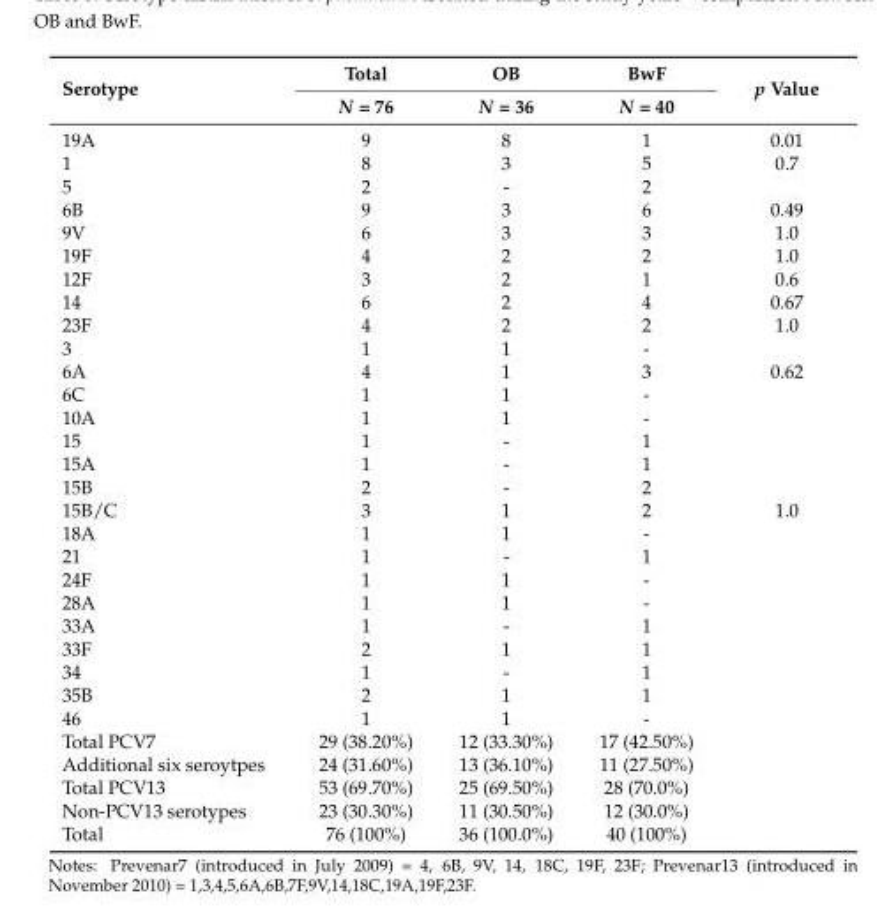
<table><thead><tr><td rowspan="2">Serotype</td><td rowspan="2">Total N = 76</td><td rowspan="2">OB N = 36</td><td rowspan="2">BwF N = 40</td><td rowspan="2">p Value</td></tr><tr></tr></thead><tbody><tr><td>19A</td><td>9</td><td>8</td><td>1</td><td>0.01</td></tr><tr><td>1</td><td>8</td><td>3</td><td>5</td><td>0.7</td></tr><tr><td>5</td><td>2</td><td>-</td><td>2</td><td></td></tr><tr><td>6B</td><td>9</td><td>3</td><td>6</td><td>0.49</td></tr><tr><td>9V</td><td>6</td><td>3</td><td>3</td><td>1.0</td></tr><tr><td>19F</td><td>4</td><td>2</td><td>2</td><td>1.0</td></tr><tr><td>12F</td><td>3</td><td>2</td><td>1</td><td>0.6</td></tr><tr><td>14</td><td>6</td><td>2</td><td>4</td><td>0.67</td></tr><tr><td>23F</td><td>4</td><td>2</td><td>2</td><td>1.0</td></tr><tr><td>3</td><td>1</td><td>1</td><td>-</td><td></td></tr><tr><td>6A</td><td>4</td><td>1</td><td>3</td><td>0.62</td></tr><tr><td>6C</td><td>1</td><td>1</td><td>-</td><td></td></tr><tr><td>10A</td><td>1</td><td>1</td><td>-</td><td></td></tr><tr><td>15</td><td>1</td><td>-</td><td>1</td><td></td></tr><tr><td>15A</td><td>1</td><td>-</td><td>1</td><td></td></tr><tr><td>15B</td><td>2</td><td>-</td><td>2</td><td></td></tr><tr><td>15B/C</td><td>3</td><td>1</td><td>2</td><td>1.0</td></tr><tr><td>18A</td><td>1</td><td>1</td><td>-</td><td></td></tr><tr><td>21</td><td>1</td><td>-</td><td>1</td><td></td></tr><tr><td>24F</td><td>1</td><td>1</td><td>-</td><td></td></tr><tr><td>28A</td><td>1</td><td>1</td><td>-</td><td></td></tr><tr><td>33A</td><td>1</td><td>-</td><td>1</td><td></td></tr><tr><td>33F</td><td>2</td><td>1</td><td>1</td><td></td></tr><tr><td>34</td><td>1</td><td>-</td><td>1</td><td></td></tr><tr><td>35B</td><td>2</td><td>1</td><td>1</td><td></td></tr><tr><td>46</td><td>1</td><td>1</td><td>-</td><td></td></tr><tr><td>Total PCV7</td><td>29 (38.20%)</td><td>12 (33.30%)</td><td>17 (42.50%)</td><td></td></tr><tr><td>Additional six seroytpes</td><td>24 (31.60%)</td><td>13 (36.10%)</td><td>11 (27.50%)</td><td></td></tr><tr><td>Total PCV13</td><td>53 (69.70%)</td><td>25 (69.50%)</td><td>28 (70.0%)</td><td></td></tr><tr><td>Non-PCV13 serotypes</td><td>23 (30.30%)</td><td>11 (30.50%)</td><td>12 (30.0%)</td><td></td></tr><tr><td>Total</td><td>76 (100%)</td><td>36 (100.0%)</td><td>40 (100%)</td><td></td></tr></tbody></table>